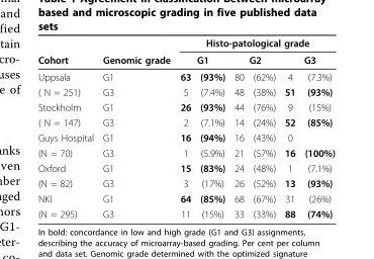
<table><thead><tr><td rowspan="3">Cohort Uppsala</td><td rowspan="3">Genomic grade G1</td><td colspan="6">Histo-patological grade</td></tr><tr><td colspan="2">G1</td><td colspan="2">G2</td><td colspan="2">G3</td></tr><tr><td>63</td><td>(93%)</td><td>80</td><td>(62%)</td><td>4</td><td>(7.3%)</td></tr></thead><tbody><tr><td>( N = 251)</td><td>G3</td><td>5</td><td>(7.4%)</td><td>48</td><td>(38%)</td><td>51</td><td>(93%)</td></tr><tr><td>Stockholm</td><td>G1</td><td>26</td><td>(93%)</td><td>44</td><td>(76%)</td><td>9</td><td>(15%)</td></tr><tr><td>( N = 147)</td><td>G3</td><td>2</td><td>(7.1%)</td><td>14</td><td>(24%)</td><td>52</td><td>(85%)</td></tr><tr><td>Guys Hospital</td><td>G1</td><td>16</td><td>(94%)</td><td>16</td><td>(43%)</td><td>0</td><td></td></tr><tr><td>(N = 70)</td><td>G3</td><td>1</td><td>(5.9%)</td><td>21</td><td>(57%)</td><td>16</td><td>(100%)</td></tr><tr><td>Oxford</td><td>G1</td><td>15</td><td>(83%)</td><td>24</td><td>(48%)</td><td>1</td><td>(7.1%)</td></tr><tr><td>(N = 82)</td><td>G3</td><td>3</td><td>(17%)</td><td>26</td><td>(52%)</td><td>13</td><td>(93%)</td></tr><tr><td>NKI</td><td>G1</td><td>64</td><td>(85%)</td><td>68</td><td>(67%)</td><td>31</td><td>(26%)</td></tr><tr><td>(N = 295)</td><td>G3</td><td>11</td><td>(15%)</td><td>33</td><td>(33%)</td><td>88</td><td>(74%)</td></tr></tbody></table>